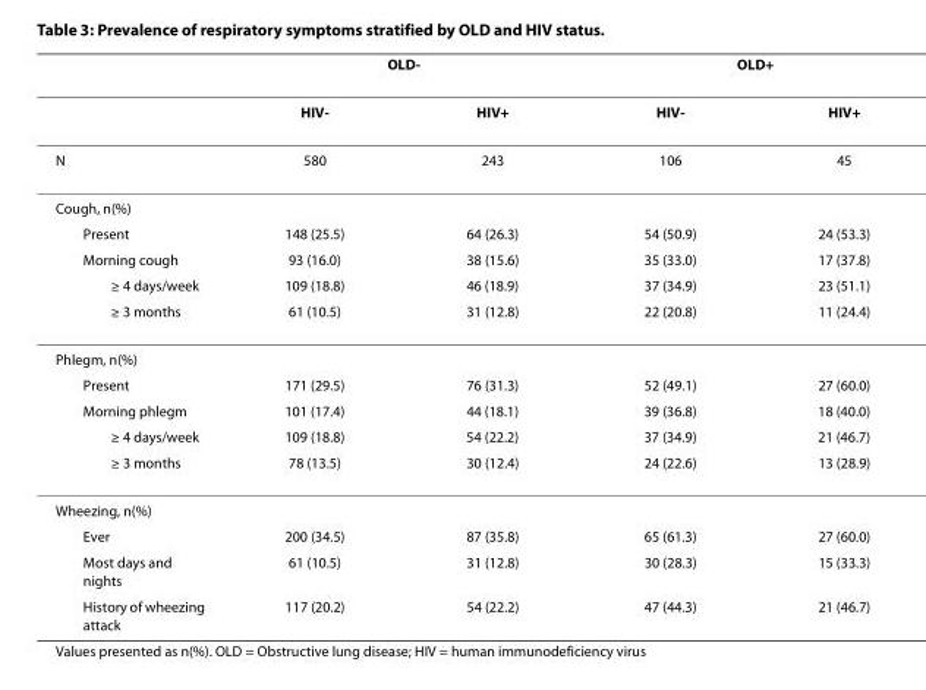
<table><thead><tr><td rowspan="2"></td><td colspan="2">OLD-</td><td colspan="2">OLD+</td></tr><tr><td>HIV-</td><td>HIV+</td><td>HIV-</td><td>HIV+</td></tr></thead><tbody><tr><td>N</td><td>580</td><td>243</td><td>106</td><td>45</td></tr><tr><td colspan="5">Cough, n(%)</td></tr><tr><td>Present</td><td>148 (25.5)</td><td>64 (26.3)</td><td>54 (50.9)</td><td>24 (53.3)</td></tr><tr><td>Morning cough</td><td>93 (16.0)</td><td>38 (15.6)</td><td>35 (33.0)</td><td>17 (37.8)</td></tr><tr><td>≥ 4 days/week</td><td>109 (18.8)</td><td>46 (18.9)</td><td>37 (34.9)</td><td>23 (51.1)</td></tr><tr><td>≥ 3 months</td><td>61 (10.5)</td><td>31 (12.8)</td><td>22 (20.8)</td><td>11 (24.4)</td></tr><tr><td colspan="5">Phlegm, n(%)</td></tr><tr><td>Present</td><td>171 (29.5)</td><td>76 (31.3)</td><td>52 (49.1)</td><td>27 (60.0)</td></tr><tr><td>Morning phlegm</td><td>101 (17.4)</td><td>44 (18.1)</td><td>39 (36.8)</td><td>18 (40.0)</td></tr><tr><td>≥ 4 days/week</td><td>109 (18.8)</td><td>54 (22.2)</td><td>37 (34.9)</td><td>21 (46.7)</td></tr><tr><td>≥ 3 months</td><td>78 (13.5)</td><td>30 (12.4)</td><td>24 (22.6)</td><td>13 (28.9)</td></tr><tr><td colspan="5">Wheezing, n(%)</td></tr><tr><td>Ever</td><td>200 (34.5)</td><td>87 (35.8)</td><td>65 (61.3)</td><td>27 (60.0)</td></tr><tr><td>Most days and nights</td><td>61 (10.5)</td><td>31 (12.8)</td><td>30 (28.3)</td><td>15 (33.3)</td></tr><tr><td>History of wheezing attack</td><td>117 (20.2)</td><td>54 (22.2)</td><td>47 (44.3)</td><td>21 (46.7)</td></tr></tbody></table>